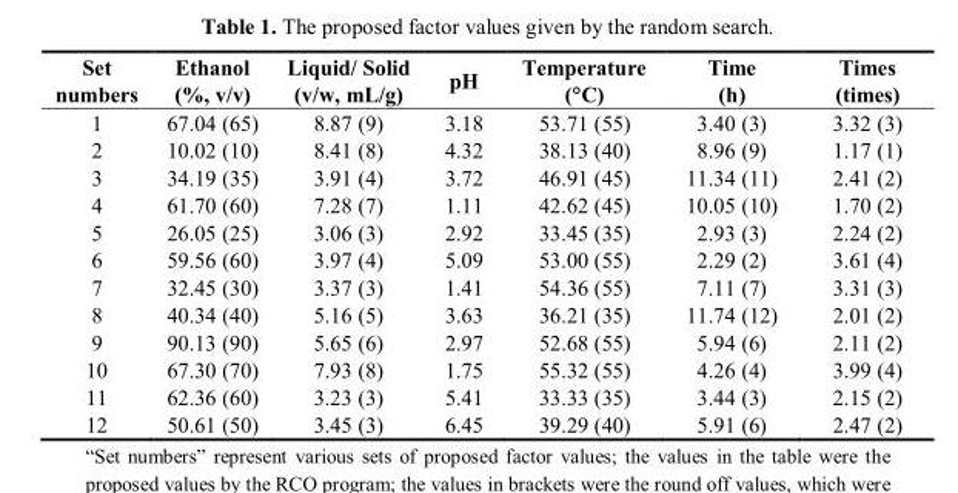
<table><thead><tr><td>Set numbers</td><td>Ethanol (%, v/v)</td><td>Liquid/ Solid (v/w, mL/g)</td><td>pH</td><td>Temperature (°C)</td><td>Time (h)</td><td>Times (times)</td></tr></thead><tbody><tr><td>1</td><td>67.04 (65)</td><td>8.87 (9)</td><td>3.18</td><td>53.71 (55)</td><td>3.40 (3)</td><td>3.32 (3)</td></tr><tr><td>2</td><td>10.02 (10)</td><td>8.41 (8)</td><td>4.32</td><td>38.13 (40)</td><td>8.96 (9)</td><td>1.17 (1)</td></tr><tr><td>3</td><td>34.19 (35)</td><td>3.91 (4)</td><td>3.72</td><td>46.91 (45)</td><td>11.34 (11)</td><td>2.41 (2)</td></tr><tr><td>4</td><td>61.70 (60)</td><td>7.28 (7)</td><td>1.11</td><td>42.62 (45)</td><td>10.05 (10)</td><td>1.70 (2)</td></tr><tr><td>5</td><td>26.05 (25)</td><td>3.06 (3)</td><td>2.92</td><td>33.45 (35)</td><td>2.93 (3)</td><td>2.24 (2)</td></tr><tr><td>6</td><td>59.56 (60)</td><td>3.97 (4)</td><td>5.09</td><td>53.00 (55)</td><td>2.29 (2)</td><td>3.61 (4)</td></tr><tr><td>7</td><td>32.45 (30)</td><td>3.37 (3)</td><td>1.41</td><td>54.36 (55)</td><td>7.11 (7)</td><td>3.31 (3)</td></tr><tr><td>8</td><td>40.34 (40)</td><td>5.16 (5)</td><td>3.63</td><td>36.21 (35)</td><td>11.74 (12)</td><td>2.01 (2)</td></tr><tr><td>9</td><td>90.13 (90)</td><td>5.65 (6)</td><td>2.97</td><td>52.68 (55)</td><td>5.94 (6)</td><td>2.11 (2)</td></tr><tr><td>10</td><td>67.30 (70)</td><td>7.93 (8)</td><td>1.75</td><td>55.32 (55)</td><td>4.26 (4)</td><td>3.99 (4)</td></tr><tr><td>11</td><td>62.36 (60)</td><td>3.23 (3)</td><td>5.41</td><td>33.33 (35)</td><td>3.44 (3)</td><td>2.15 (2)</td></tr><tr><td>12</td><td>50.61 (50)</td><td>3.45 (3)</td><td>6.45</td><td>39.29 (40)</td><td>5.91 (6)</td><td>2.47 (2)</td></tr></tbody></table>